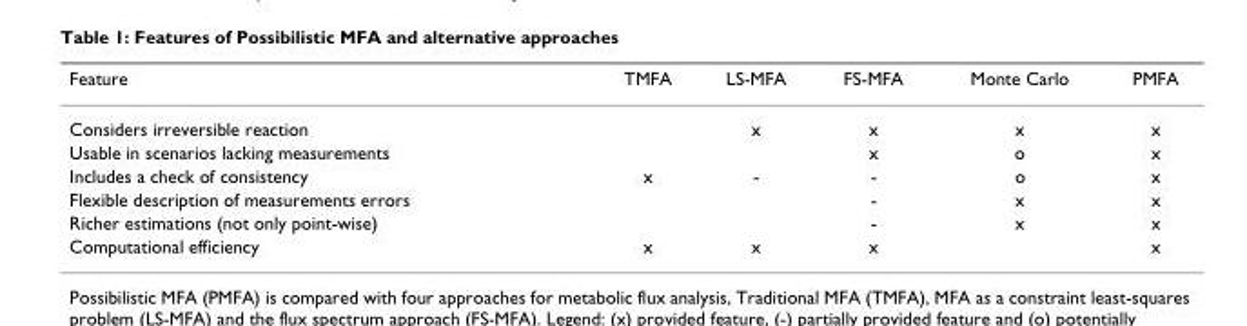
<table><thead><tr><td>Feature</td><td>TMFA</td><td>LS-MFA</td><td>FS-MFA</td><td>Monte Carlo</td><td>PMFA</td></tr></thead><tbody><tr><td>Considers irreversible reaction</td><td></td><td>x</td><td>x</td><td>x</td><td>x</td></tr><tr><td>Usable in scenarios lacking measurements</td><td></td><td></td><td>x</td><td>o</td><td>x</td></tr><tr><td>Includes a check of consistency</td><td>x</td><td>-</td><td>-</td><td>o</td><td>x</td></tr><tr><td>Flexible description of measurements errors</td><td></td><td></td><td>-</td><td>x</td><td>x</td></tr><tr><td>Richer estimations (not only point-wise)</td><td></td><td></td><td>-</td><td>x</td><td>x</td></tr><tr><td>Computational efficiency</td><td>x</td><td>x</td><td>x</td><td></td><td>x</td></tr></tbody></table>